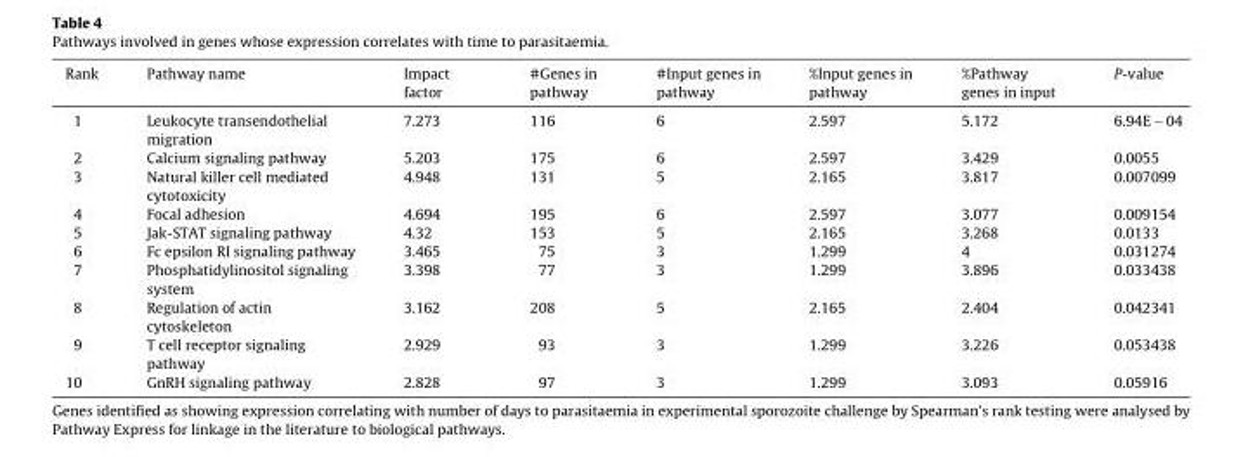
<table><thead><tr><td>Rank</td><td>Pathway name</td><td>Impact factor</td><td>#Genes in pathway</td><td>#Input genes in pathway</td><td>%Input genes in pathway</td><td>%Pathway genes in input</td><td>P-value</td></tr></thead><tbody><tr><td>1</td><td>Leukocyte transendothelial migration</td><td>7.273</td><td>116</td><td>6</td><td>2.597</td><td>5.172</td><td>6.94E − 04</td></tr><tr><td>2</td><td>Calcium signaling pathway</td><td>5.203</td><td>175</td><td>6</td><td>2.597</td><td>3.429</td><td>0.0055</td></tr><tr><td>3</td><td>Natural killer cell mediated cytotoxicity</td><td>4.948</td><td>131</td><td>5</td><td>2.165</td><td>3.817</td><td>0.007099</td></tr><tr><td>4</td><td>Focal adhesion</td><td>4.694</td><td>195</td><td>6</td><td>2.597</td><td>3.077</td><td>0.009154</td></tr><tr><td>5</td><td>Jak-STAT signaling pathway</td><td>4.32</td><td>153</td><td>5</td><td>2.165</td><td>3.268</td><td>0.0133</td></tr><tr><td>6</td><td>Fc epsilon RI signaling pathway</td><td>3.465</td><td>75</td><td>3</td><td>1.299</td><td>4</td><td>0.031274</td></tr><tr><td>7</td><td>Phosphatidylinositol signaling system</td><td>3.398</td><td>77</td><td>3</td><td>1.299</td><td>3.896</td><td>0.033438</td></tr><tr><td>8</td><td>Regulation of actin cytoskeleton</td><td>3.162</td><td>208</td><td>5</td><td>2.165</td><td>2.404</td><td>0.042341</td></tr><tr><td>9</td><td>T cell receptor signaling pathway</td><td>2.929</td><td>93</td><td>3</td><td>1.299</td><td>3.226</td><td>0.053438</td></tr><tr><td>10</td><td>GnRH signaling pathway</td><td>2.828</td><td>97</td><td>3</td><td>1.299</td><td>3.093</td><td>0.05916</td></tr></tbody></table>